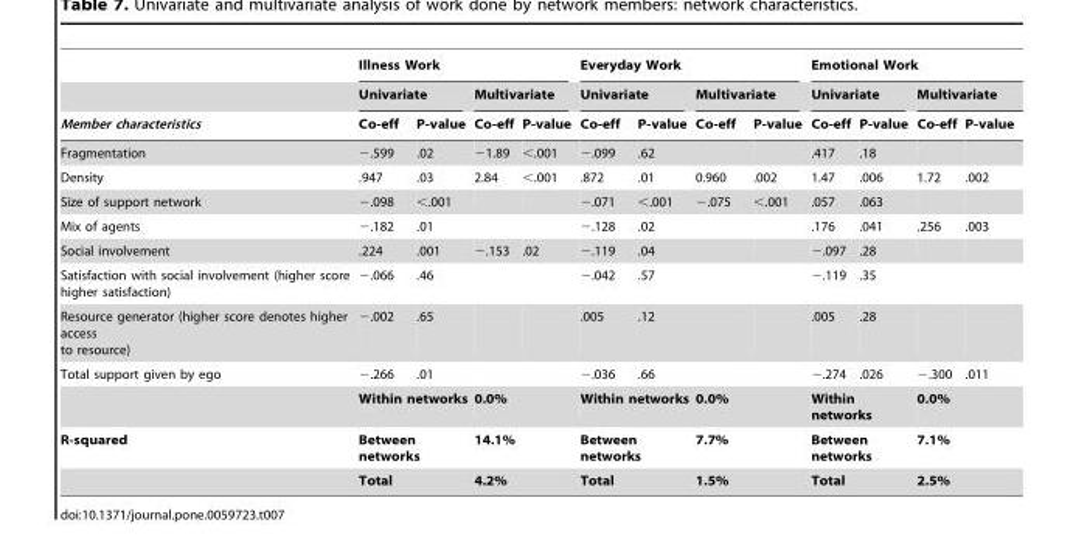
<table><thead><tr><td rowspan="3">Member characteristics</td><td colspan="4">Illness Work</td><td colspan="4">Everyday Work</td><td colspan="4">Emotional Work</td></tr><tr><td colspan="2">Univariate</td><td colspan="2">Multivariate</td><td colspan="2">Univariate</td><td colspan="2">Multivariate</td><td colspan="2">Univariate</td><td colspan="2">Multivariate</td></tr><tr><td>Co-eff</td><td>P-value</td><td>Co-eff</td><td>P-value</td><td>Co-eff</td><td>P-value</td><td>Co-eff</td><td>P-value</td><td>Co-eff</td><td>P-value</td><td>Co-eff</td><td>P-value</td></tr></thead><tbody><tr><td>Fragmentation</td><td>−.599</td><td>.02</td><td>−1.89</td><td>&lt;.001</td><td>−.099</td><td>.62</td><td></td><td></td><td>.417</td><td>.18</td><td></td><td></td></tr><tr><td>Density</td><td>.947</td><td>.03</td><td>2.84</td><td>&lt;.001</td><td>.872</td><td>.01</td><td>0.960</td><td>.002</td><td>1.47</td><td>.006</td><td>1.72</td><td>.002</td></tr><tr><td>Size of support network</td><td>−.098</td><td>&lt;.001</td><td></td><td></td><td>−.071</td><td>&lt;.001</td><td>−.075</td><td>&lt;.001</td><td>.057</td><td>.063</td><td></td><td></td></tr><tr><td>Mix of agents</td><td>−.182</td><td>.01</td><td></td><td></td><td>−.128</td><td>.02</td><td></td><td></td><td>.176</td><td>.041</td><td>.256</td><td>.003</td></tr><tr><td>Social involvement</td><td>.224</td><td>.001</td><td>−.153</td><td>.02</td><td>−.119</td><td>.04</td><td></td><td></td><td>−.097</td><td>.28</td><td></td><td></td></tr><tr><td>Satisfaction with social involvement (higher score higher satisfaction)</td><td>−.066</td><td>.46</td><td></td><td></td><td>−.042</td><td>.57</td><td></td><td></td><td>−.119</td><td>.35</td><td></td><td></td></tr><tr><td>Resource generator (higher score denotes higher access to resource)</td><td>−.002</td><td>.65</td><td></td><td></td><td>.005</td><td>.12</td><td></td><td></td><td>.005</td><td>.28</td><td></td><td></td></tr><tr><td rowspan="2">Total support given by ego</td><td>−.266</td><td>.01</td><td></td><td></td><td>−.036</td><td>.66</td><td></td><td></td><td>−.274</td><td>.026</td><td>−.300</td><td>.011</td></tr><tr><td colspan="2">Within networks</td><td colspan="2">0.0%</td><td colspan="2">Within networks</td><td colspan="2">0.0%</td><td colspan="2">Within networks</td><td colspan="2">0.0%</td></tr><tr><td rowspan="2">R-squared</td><td colspan="2">Between networks</td><td colspan="2">14.1%</td><td colspan="2">Between networks</td><td colspan="2">7.7%</td><td colspan="2">Between networks</td><td colspan="2">7.1%</td></tr><tr><td colspan="2">Total</td><td colspan="2">4.2%</td><td colspan="2">Total</td><td colspan="2">1.5%</td><td colspan="2">Total</td><td colspan="2">2.5%</td></tr></tbody></table>